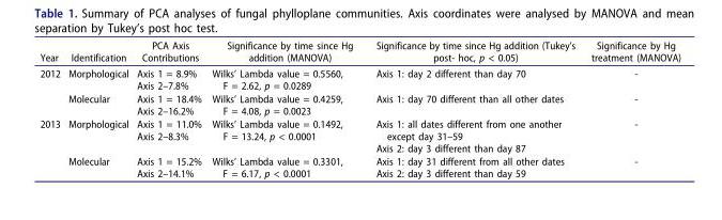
<table><thead><tr><td>Year</td><td>Identification</td><td>PCA Axis Contributions</td><td>Significance by time since Hg addition (MANOVA)</td><td>Significance by time since Hg addition (Tukey’s post- hoc, p &lt; 0.05)</td><td>Significance by Hg treatment (MANOVA)</td></tr></thead><tbody><tr><td rowspan="2">2012</td><td>Morphological</td><td>Axis 1 = 8.9% Axis 2–7.8%</td><td>Wilks’ Lambda value = 0.5560, F = 2.62, p = 0.0289</td><td>Axis 1: day 2 different than day 70</td><td>-</td></tr><tr><td>Molecular</td><td>Axis 1 = 18.4% Axis 2–16.2%</td><td>Wilks’ Lambda value = 0.4259, F = 4.08, p = 0.0023</td><td>Axis 1: day 70 different than all other dates</td><td>-</td></tr><tr><td rowspan="2">2013</td><td>Morphological</td><td>Axis 1 = 11.0% Axis 2–8.3%</td><td>Wilks’ Lambda value = 0.1492, F = 13.24, p &lt; 0.0001</td><td>Axis 1: all dates different from one another except day 31–59 Axis 2: day 3 different than day 87</td><td>-</td></tr><tr><td>Molecular</td><td>Axis 1 = 15.2% Axis 2–14.1%</td><td>Wilks’ Lambda value = 0.3301, F = 6.17, p &lt; 0.0001</td><td>Axis 1: day 31 different from all other dates Axis 2: day 3 different than day 59</td><td>-</td></tr></tbody></table>